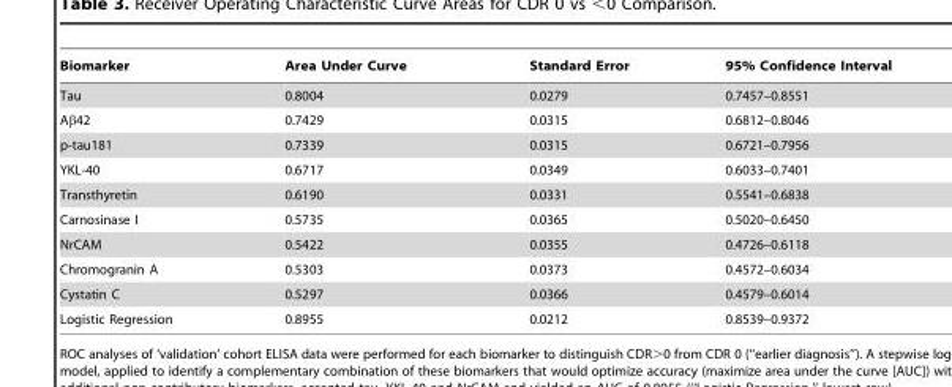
<table><thead><tr><td>Biomarker</td><td>Area Under Curve</td><td>Standard Error</td><td>95% Confidence Interval</td></tr></thead><tbody><tr><td>Tau</td><td>0.8004</td><td>0.0279</td><td>0.7457–0.8551</td></tr><tr><td>Aβ42</td><td>0.7429</td><td>0.0315</td><td>0.6812–0.8046</td></tr><tr><td>p-tau181</td><td>0.7339</td><td>0.0315</td><td>0.6721–0.7956</td></tr><tr><td>YKL-40</td><td>0.6717</td><td>0.0349</td><td>0.6033–0.7401</td></tr><tr><td>Transthyretin</td><td>0.6190</td><td>0.0331</td><td>0.5541–0.6838</td></tr><tr><td>Carnosinase I</td><td>0.5735</td><td>0.0365</td><td>0.5020–0.6450</td></tr><tr><td>NrCAM</td><td>0.5422</td><td>0.0355</td><td>0.4726–0.6118</td></tr><tr><td>Chromogranin A</td><td>0.5303</td><td>0.0373</td><td>0.4572–0.6034</td></tr><tr><td>Cystatin C</td><td>0.5297</td><td>0.0366</td><td>0.4579–0.6014</td></tr><tr><td>Logistic Regression</td><td>0.8955</td><td>0.0212</td><td>0.8539–0.9372</td></tr></tbody></table>